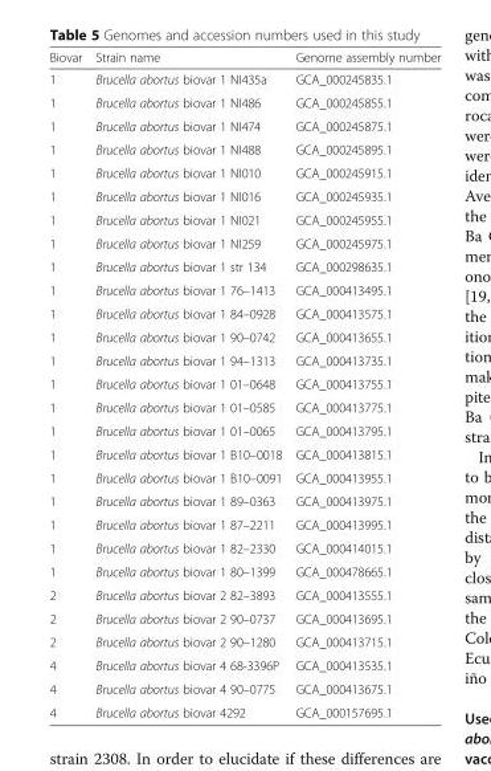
<table><thead><tr><td>Biovar</td><td>Strain name</td><td>Genome assembly number</td></tr></thead><tbody><tr><td>1</td><td>Brucella abortus biovar 1 NI435a</td><td>GCA_000245835.1</td></tr><tr><td>1</td><td>Brucella abortus biovar 1 NI486</td><td>GCA_000245855.1</td></tr><tr><td>1</td><td>Brucella abortus biovar 1 NI474</td><td>GCA_000245875.1</td></tr><tr><td>1</td><td>Brucella abortus biovar 1 NI488</td><td>GCA_000245895.1</td></tr><tr><td>1</td><td>Brucella abortus biovar 1 NI010</td><td>GCA_000245915.1</td></tr><tr><td>1</td><td>Brucella abortus biovar 1 NI016</td><td>GCA_000245935.1</td></tr><tr><td>1</td><td>Brucella abortus biovar 1 NI021</td><td>GCA_000245955.1</td></tr><tr><td>1</td><td>Brucella abortus biovar 1 NI259</td><td>GCA_000245975.1</td></tr><tr><td>1</td><td>Brucella abortus biovar 1 str 134</td><td>GCA_000298635.1</td></tr><tr><td>1</td><td>Brucella abortus biovar 1 76–1413</td><td>GCA_000413495.1</td></tr><tr><td>1</td><td>Brucella abortus biovar 1 84–0928</td><td>GCA_000413575.1</td></tr><tr><td>1</td><td>Brucella abortus biovar 1 90–0742</td><td>GCA_000413655.1</td></tr><tr><td>1</td><td>Brucella abortus biovar 1 94–1313</td><td>GCA_000413735.1</td></tr><tr><td>1</td><td>Brucella abortus biovar 1 01–0648</td><td>GCA_000413755.1</td></tr><tr><td>1</td><td>Brucella abortus biovar 1 01–0585</td><td>GCA_000413775.1</td></tr><tr><td>1</td><td>Brucella abortus biovar 1 01–0065</td><td>GCA_000413795.1</td></tr><tr><td>1</td><td>Brucella abortus biovar 1 B10–0018</td><td>GCA_000413815.1</td></tr><tr><td>1</td><td>Brucella abortus biovar 1 B10–0091</td><td>GCA_000413955.1</td></tr><tr><td>1</td><td>Brucella abortus biovar 1 89–0363</td><td>GCA_000413975.1</td></tr><tr><td>1</td><td>Brucella abortus biovar 1 87–2211</td><td>GCA_000413995.1</td></tr><tr><td>1</td><td>Brucella abortus biovar 1 82–2330</td><td>GCA_000414015.1</td></tr><tr><td>1</td><td>Brucella abortus biovar 1 80–1399</td><td>GCA_000478665.1</td></tr><tr><td>2</td><td>Brucella abortus biovar 2 82–3893</td><td>GCA_000413555.1</td></tr><tr><td>2</td><td>Brucella abortus biovar 2 90–0737</td><td>GCA_000413695.1</td></tr><tr><td>2</td><td>Brucella abortus biovar 2 90–1280</td><td>GCA_000413715.1</td></tr><tr><td>4</td><td>Brucella abortus biovar 4 68-3396P</td><td>GCA_000413535.1</td></tr><tr><td>4</td><td>Brucella abortus biovar 4 90–0775</td><td>GCA_000413675.1</td></tr><tr><td>4</td><td>Brucella abortus biovar 4292</td><td>GCA_000157695.1</td></tr></tbody></table>